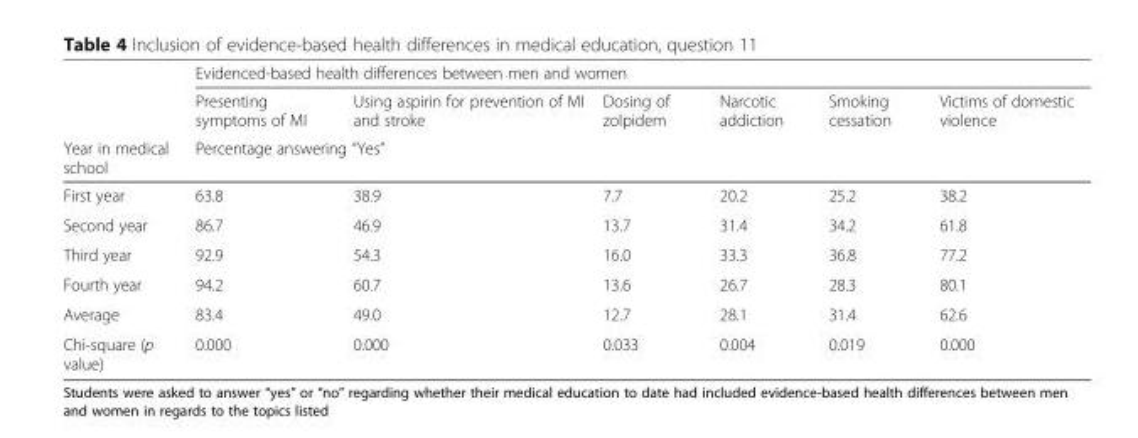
<table><thead><tr><td rowspan="3">Year in medical school</td><td colspan="6">Evidenced-based health differences between men and women</td></tr><tr><td>Presenting symptoms of MI</td><td>Using aspirin for prevention of MI and stroke</td><td>Dosing of zolpidem</td><td>Narcotic addiction</td><td>Smoking cessation</td><td>Victims of domestic violence</td></tr><tr><td colspan="6">Percentage answering “Yes”</td></tr></thead><tbody><tr><td>First year</td><td>63.8</td><td>38.9</td><td>7.7</td><td>20.2</td><td>25.2</td><td>38.2</td></tr><tr><td>Second year</td><td>86.7</td><td>46.9</td><td>13.7</td><td>31.4</td><td>34.2</td><td>61.8</td></tr><tr><td>Third year</td><td>92.9</td><td>54.3</td><td>16.0</td><td>33.3</td><td>36.8</td><td>77.2</td></tr><tr><td>Fourth year</td><td>94.2</td><td>60.7</td><td>13.6</td><td>26.7</td><td>28.3</td><td>80.1</td></tr><tr><td>Average</td><td>83.4</td><td>49.0</td><td>12.7</td><td>28.1</td><td>31.4</td><td>62.6</td></tr><tr><td>Chi-square (p value)</td><td>0.000</td><td>0.000</td><td>0.033</td><td>0.004</td><td>0.019</td><td>0.000</td></tr></tbody></table>